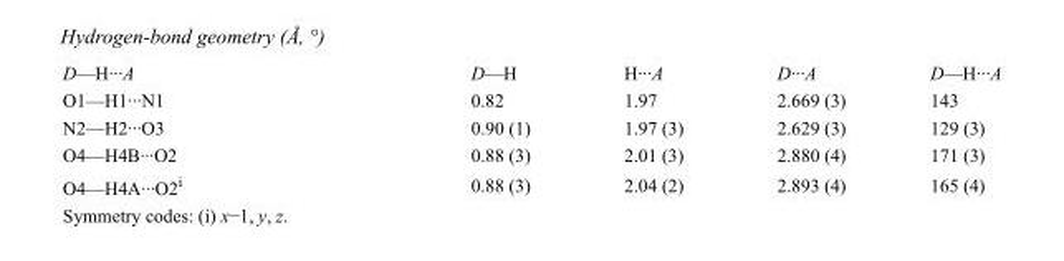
<table><tbody><tr><td>D—H···A</td><td>D—H</td><td>H···A</td><td>D···A</td><td>D—H···A</td></tr><tr><td>O1—H1···N1</td><td>0.82</td><td>1.97</td><td>2.669 (3)</td><td>143</td></tr><tr><td>N2—H2···O3</td><td>0.90 (1)</td><td>1.97 (3)</td><td>2.629 (3)</td><td>129 (3)</td></tr><tr><td>O4—H4B···O2</td><td>0.88 (3)</td><td>2.01 (3)</td><td>2.880 (4)</td><td>171 (3)</td></tr><tr><td>O4—H4A···O2<sup>i</sup></td><td>0.88 (3)</td><td>2.04 (2)</td><td>2.893 (4)</td><td>165 (4)</td></tr></tbody></table>